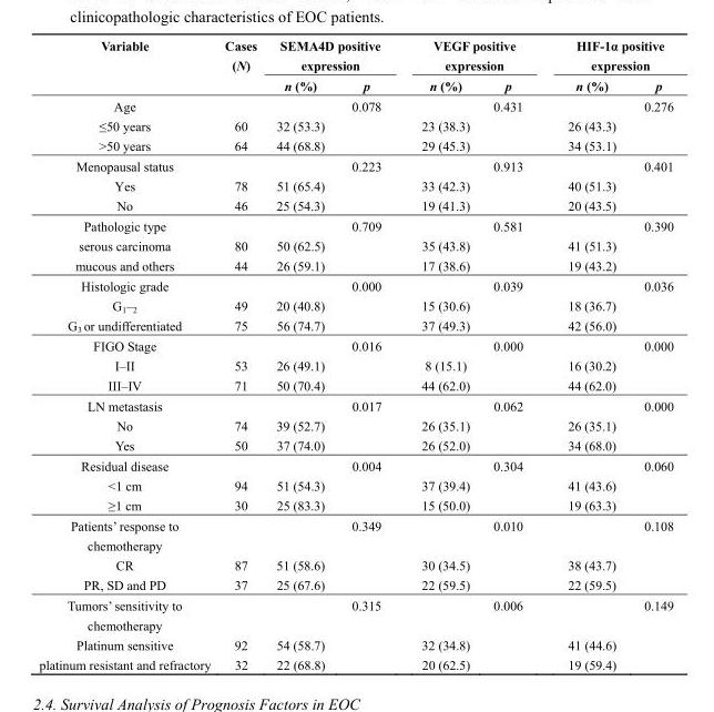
<table><thead><tr><td rowspan="2">Variable</td><td rowspan="2">Cases (N)</td><td colspan="2">SEMA4D positive expression</td><td colspan="2">VEGF positive expression</td><td colspan="2">HIF-1α positive expression</td></tr><tr><td>n (%)</td><td>p</td><td>n (%)</td><td>p</td><td>n (%)</td><td>p</td></tr></thead><tbody><tr><td>Age</td><td></td><td></td><td>0.078</td><td></td><td>0.431</td><td></td><td>0.276</td></tr><tr><td>≤50 years</td><td>60</td><td>32 (53.3)</td><td></td><td>23 (38.3)</td><td></td><td>26 (43.3)</td><td></td></tr><tr><td>&gt;50 years</td><td>64</td><td>44 (68.8)</td><td></td><td>29 (45.3)</td><td></td><td>34 (53.1)</td><td></td></tr><tr><td>Menopausal status</td><td></td><td></td><td>0.223</td><td></td><td>0.913</td><td></td><td>0.401</td></tr><tr><td>Yes</td><td>78</td><td>51 (65.4)</td><td></td><td>33 (42.3)</td><td></td><td>40 (51.3)</td><td></td></tr><tr><td>No</td><td>46</td><td>25 (54.3)</td><td></td><td>19 (41.3)</td><td></td><td>20 (43.5)</td><td></td></tr><tr><td>Pathologic type</td><td></td><td></td><td>0.709</td><td></td><td>0.581</td><td></td><td>0.390</td></tr><tr><td>serous carcinoma</td><td>80</td><td>50 (62.5)</td><td></td><td>35 (43.8)</td><td></td><td>41 (51.3)</td><td></td></tr><tr><td>mucous and others</td><td>44</td><td>26 (59.1)</td><td></td><td>17 (38.6)</td><td></td><td>19 (43.2)</td><td></td></tr><tr><td>Histologic grade</td><td></td><td></td><td>0.000</td><td></td><td>0.039</td><td></td><td>0.036</td></tr><tr><td>G<sub>1–2</sub></td><td>49</td><td>20 (40.8)</td><td></td><td>15 (30.6)</td><td></td><td>18 (36.7)</td><td></td></tr><tr><td>G<sub>3</sub> or undifferentiated</td><td>75</td><td>56 (74.7)</td><td></td><td>37 (49.3)</td><td></td><td>42 (56.0)</td><td></td></tr><tr><td>FIGO Stage</td><td></td><td></td><td>0.016</td><td></td><td>0.000</td><td></td><td>0.000</td></tr><tr><td>I–II</td><td>53</td><td>26 (49.1)</td><td></td><td>8 (15.1)</td><td></td><td>16 (30.2)</td><td></td></tr><tr><td>III–IV</td><td>71</td><td>50 (70.4)</td><td></td><td>44 (62.0)</td><td></td><td>44 (62.0)</td><td></td></tr><tr><td>LN metastasis</td><td></td><td></td><td>0.017</td><td></td><td>0.062</td><td></td><td>0.000</td></tr><tr><td>No</td><td>74</td><td>39 (52.7)</td><td></td><td>26 (35.1)</td><td></td><td>26 (35.1)</td><td></td></tr><tr><td>Yes</td><td>50</td><td>37 (74.0)</td><td></td><td>26 (52.0)</td><td></td><td>34 (68.0)</td><td></td></tr><tr><td>Residual disease</td><td></td><td></td><td>0.004</td><td></td><td>0.304</td><td></td><td>0.060</td></tr><tr><td>&lt;1 cm</td><td>94</td><td>51 (54.3)</td><td></td><td>37 (39.4)</td><td></td><td>41 (43.6)</td><td></td></tr><tr><td>≥1 cm</td><td>30</td><td>25 (83.3)</td><td></td><td>15 (50.0)</td><td></td><td>19 (63.3)</td><td></td></tr><tr><td>Patients’ response to chemotherapy</td><td></td><td></td><td>0.349</td><td></td><td>0.010</td><td></td><td>0.108</td></tr><tr><td>CR</td><td>87</td><td>51 (58.6)</td><td></td><td>30 (34.5)</td><td></td><td>38 (43.7)</td><td></td></tr><tr><td>PR, SD and PD</td><td>37</td><td>25 (67.6)</td><td></td><td>22 (59.5)</td><td></td><td>22 (59.5)</td><td></td></tr><tr><td>Tumors’ sensitivity to chemotherapy</td><td></td><td></td><td>0.315</td><td></td><td>0.006</td><td></td><td>0.149</td></tr><tr><td>Platinum sensitive</td><td>92</td><td>54 (58.7)</td><td></td><td>32 (34.8)</td><td></td><td>41 (44.6)</td><td></td></tr><tr><td>platinum resistant and refractory</td><td>32</td><td>22 (68.8)</td><td></td><td>20 (62.5)</td><td></td><td>19 (59.4)</td><td></td></tr></tbody></table>